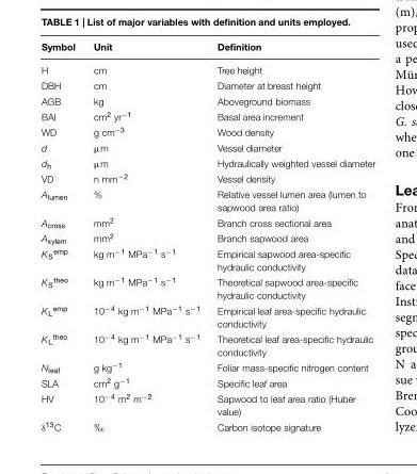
<table><thead><tr><td>Symbol</td><td>Unit</td><td>Definition</td></tr></thead><tbody><tr><td>H</td><td>cm</td><td>Tree height</td></tr><tr><td>DBH</td><td>cm</td><td>Diameter at breast height</td></tr><tr><td>AGB</td><td>kg</td><td>Aboveground biomass</td></tr><tr><td>BAI</td><td>cm<sup>2</sup> yr<sup>−1</sup></td><td>Basal area increment</td></tr><tr><td>WD</td><td>g cm<sup>−3</sup></td><td>Wood density</td></tr><tr><td>d</td><td>μm</td><td>Vessel diameter</td></tr><tr><td>d<sub>h</sub></td><td>μm</td><td>Hydraulically weighted vessel diameter</td></tr><tr><td>VD</td><td>n mm<sup>−2</sup></td><td>Vessel density</td></tr><tr><td>A<sub>lumen</sub></td><td>%</td><td>Relative vessel lumen area (lumen to sapwood area ratio)</td></tr><tr><td>A<sub>cross</sub></td><td>mm<sup>2</sup></td><td>Branch cross sectional area</td></tr><tr><td>A<sub>xylem</sub></td><td>mm<sup>2</sup></td><td>Branch sapwood area</td></tr><tr><td>K<sub>S</sub><sup>emp</sup></td><td>kg m<sup>−1</sup> MPa<sup>−1</sup> s<sup>−1</sup></td><td>Empirical sapwood area-specific hydraulic conductivity</td></tr><tr><td>K<sub>S</sub><sup>theo</sup></td><td>kg m<sup>−1</sup> MPa<sup>−1</sup> s<sup>−1</sup></td><td>Theoretical sapwood area-specific hydraulic conductivity</td></tr><tr><td>K<sub>L</sub><sup>emp</sup></td><td>10<sup>−4</sup> kg m<sup>−1</sup> MPa<sup>−1</sup> s<sup>−1</sup></td><td>Empirical leaf area-specific hydraulic conductivity</td></tr><tr><td>K<sub>L</sub><sup>theo</sup></td><td>10<sup>−4</sup> kg m<sup>−1</sup> MPa<sup>−1</sup> s<sup>−1</sup></td><td>Theoretical leaf area-specific hydraulic conductivity</td></tr><tr><td>N<sub>leaf</sub></td><td>g kg<sup>−1</sup></td><td>Foliar mass-specific nitrogen content</td></tr><tr><td>SLA</td><td>cm<sup>2</sup> g<sup>−1</sup></td><td>Specific leaf area</td></tr><tr><td>HV</td><td>10<sup>−4</sup> m<sup>2</sup> m<sup>−2</sup></td><td>Sapwood to leaf area ratio (Huber value)</td></tr><tr><td>δ<sup>13</sup>C</td><td></td><td>Carbon isotope signature</td></tr></tbody></table>